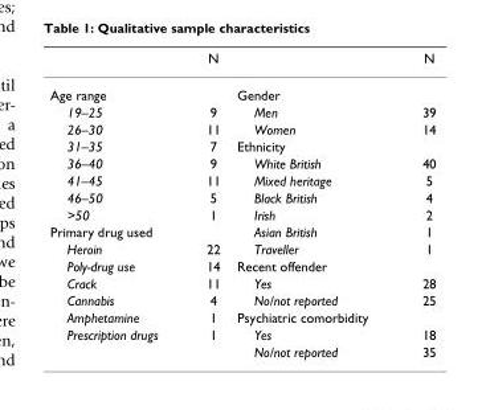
<table><thead><tr><td></td><td>N</td><td></td><td>N</td></tr></thead><tbody><tr><td>Age range</td><td></td><td>Gender</td><td></td></tr><tr><td>19–25</td><td>9</td><td>Men</td><td>39</td></tr><tr><td>26–30</td><td>11</td><td>Women</td><td>14</td></tr><tr><td>31–35</td><td>7</td><td>Ethnicity</td><td></td></tr><tr><td>36–40</td><td>9</td><td>White British</td><td>40</td></tr><tr><td>41–45</td><td>11</td><td>Mixed heritage</td><td>5</td></tr><tr><td>46–50</td><td>5</td><td>Black British</td><td>4</td></tr><tr><td>&gt;50</td><td>1</td><td>Irish</td><td>2</td></tr><tr><td>Primary drug used</td><td></td><td>Asian British</td><td>1</td></tr><tr><td>Heroin</td><td>22</td><td>Traveller</td><td>1</td></tr><tr><td>Poly-drug use</td><td>14</td><td>Recent offender</td><td></td></tr><tr><td>Crack</td><td>11</td><td>Yes</td><td>28</td></tr><tr><td>Cannabis</td><td>4</td><td>No/not reported</td><td>25</td></tr><tr><td>Amphetamine</td><td>1</td><td>Psychiatric comorbidity</td><td></td></tr><tr><td rowspan="2">Prescription drugs</td><td>1</td><td>Yes</td><td>18</td></tr><tr><td></td><td>No/not reported</td><td>35</td></tr></tbody></table>